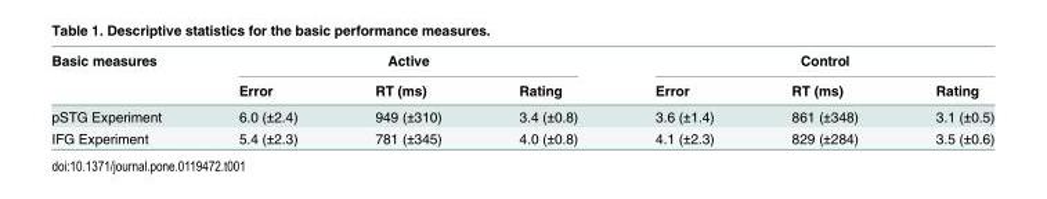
<table><thead><tr><td rowspan="2">Basic measures</td><td colspan="3">Active</td><td colspan="3">Control</td></tr><tr><td>Error</td><td>RT (ms)</td><td>Rating</td><td>Error</td><td>RT (ms)</td><td>Rating</td></tr></thead><tbody><tr><td>pSTG Experiment</td><td>6.0 (±2.4)</td><td>949 (±310)</td><td>3.4 (±0.8)</td><td>3.6 (±1.4)</td><td>861 (±348)</td><td>3.1 (±0.5)</td></tr><tr><td>IFG Experiment</td><td>5.4 (±2.3)</td><td>781 (±345)</td><td>4.0 (±0.8)</td><td>4.1 (±2.3)</td><td>829 (±284)</td><td>3.5 (±0.6)</td></tr></tbody></table>